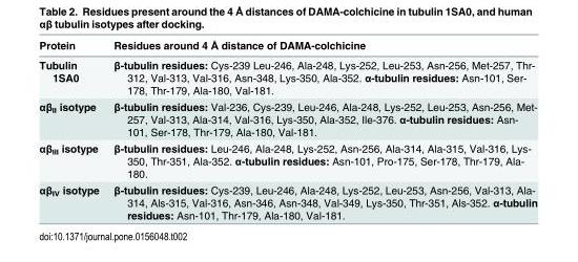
<table><thead><tr><td>Protein</td><td>Residues around 4 Å distance of DAMA-colchicine</td></tr></thead><tbody><tr><td>Tubulin 1SA0</td><td>β-tubulin residues: Cys-239 Leu-246, Ala-248, Lys-252, Leu-253, Asn-256, Met-257, Thr- 312, Val-313, Val-316, Asn-348, Lys-350, Ala-352. α-tubulin residues: Asn-101, Ser- 178, Thr-179, Ala-180, Val-181.</td></tr><tr><td>αβ<sub>II</sub> isotype</td><td>β-tubulin residues: Val-236, Cys-239, Leu-246, Ala-248, Lys-252, Leu-253, Asn-256, Met- 257, Val-313, Ala-314, Val-316, Lys-350, Ala-352, Ile-376. α-tubulin residues: Asn- 101, Ser-178, Thr-179, Ala-180, Val-181.</td></tr><tr><td>αβ<sub>III</sub> isotype</td><td>β-tubulin residues: Leu-246, Ala-248, Lys-252, Asn-256, Ala-314, Ala-315, Val-316, Lys- 350, Thr-351, Ala-352. α-tubulin residues: Asn-101, Pro-175, Ser-178, Thr-179, Ala- 180.</td></tr><tr><td>αβ<sub>IV</sub> isotype</td><td>β-tubulin residues: Cys-239, Leu-246, Ala-248, Lys-252, Leu-253, Asn-256, Val-313, Ala- 314, Als-315, Val-316, Asn-346, Asn-348, Val-349, Lys-350, Thr-351, Als-352. α-tubulin residues: Asn-101, Thr-179, Ala-180, Val-181.</td></tr></tbody></table>